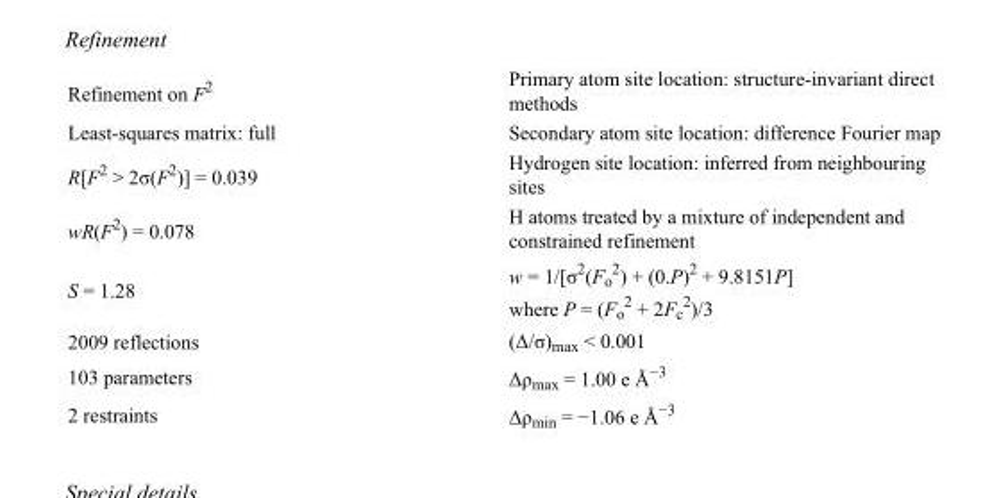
<table><tbody><tr><td>Refinement on F<sup>2</sup></td><td>Primary atom site location: structure-invariant direct methods</td></tr><tr><td>Least-squares matrix: full</td><td>Secondary atom site location: difference Fourier map</td></tr><tr><td>R[F<sup>2</sup> &gt; 2σ(F<sup>2</sup>)] = 0.039</td><td>Hydrogen site location: inferred from neighbouring sites</td></tr><tr><td>wR(F<sup>2</sup>) = 0.078</td><td>H atoms treated by a mixture of independent and constrained refinement</td></tr><tr><td>S = 1.28</td><td>w = 1/[σ<sup>2</sup>(F<sub>o</sub> <sup>2</sup>) + (0.P)<sup>2</sup> + 9.8151P] where P = (F<sub>o</sub> <sup>2</sup> + 2F<sub>c</sub> <sup>2</sup>)/3</td></tr><tr><td>2009 reflections</td><td>(Δ/σ)<sub>max</sub> &lt; 0.001</td></tr><tr><td>103 parameters</td><td>Δρ<sub>max</sub> = 1.00 e Å<sup>−3</sup></td></tr><tr><td>2 restraints</td><td>Δρ<sub>min</sub> = −1.06 e Å<sup>−3</sup></td></tr></tbody></table>